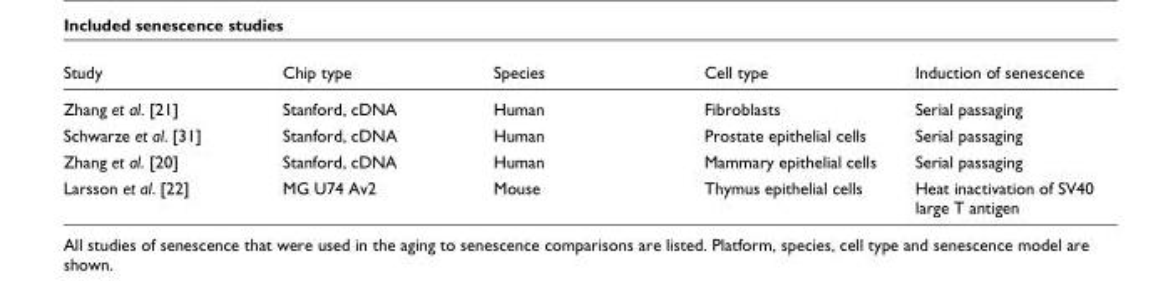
<table><thead><tr><td>Study</td><td>Chip type</td><td>Species</td><td>Cell type</td><td>Induction of senescence</td></tr></thead><tbody><tr><td>Zhang et al. [21]</td><td>Stanford, cDNA</td><td>Human</td><td>Fibroblasts</td><td>Serial passaging</td></tr><tr><td>Schwarze et al. [31]</td><td>Stanford, cDNA</td><td>Human</td><td>Prostate epithelial cells</td><td>Serial passaging</td></tr><tr><td>Zhang et al. [20]</td><td>Stanford, cDNA</td><td>Human</td><td>Mammary epithelial cells</td><td>Serial passaging</td></tr><tr><td>Larsson et al. [22]</td><td>MG U74 Av2</td><td>Mouse</td><td>Thymus epithelial cells</td><td>Heat inactivation of SV40 large T antigen</td></tr></tbody></table>